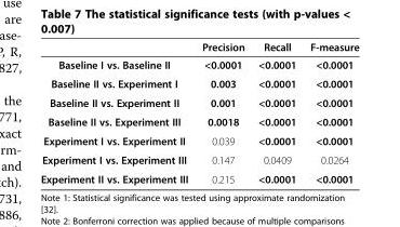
<table><thead><tr><td></td><td>Precision</td><td>Recall</td><td>F-measure</td></tr></thead><tbody><tr><td>Baseline I vs. Baseline II</td><td>&lt;0.0001</td><td>&lt;0.0001</td><td>&lt;0.0001</td></tr><tr><td>Baseline II vs. Experiment I</td><td>0.003</td><td>&lt;0.0001</td><td>&lt;0.0001</td></tr><tr><td>Baseline II vs. Experiment II</td><td>0.001</td><td>&lt;0.0001</td><td>&lt;0.0001</td></tr><tr><td>Baseline II vs. Experiment III</td><td>0.0018</td><td>&lt;0.0001</td><td>&lt;0.0001</td></tr><tr><td>Experiment I vs. Experiment II</td><td>0.039</td><td>&lt;0.0001</td><td>&lt;0.0001</td></tr><tr><td>Experiment I vs. Experiment III</td><td>0.147</td><td>0.0409</td><td>0.0264</td></tr><tr><td>Experiment II vs. Experiment III</td><td>0.215</td><td>&lt;0.0001</td><td>&lt;0.0001</td></tr></tbody></table>